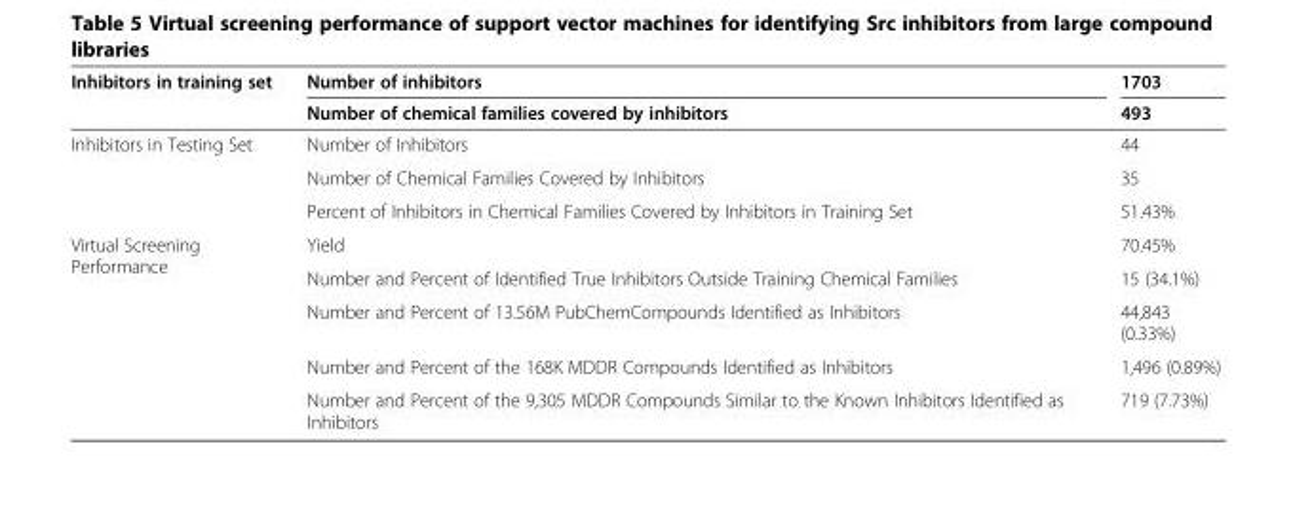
<table><thead><tr><td rowspan="2">Inhibitors in training set</td><td rowspan="2">Number of inhibitors Number of chemical families covered by inhibitors</td><td rowspan="2">1703 493</td></tr><tr></tr></thead><tbody><tr><td rowspan="3">Inhibitors in Testing Set</td><td>Number of Inhibitors</td><td>44</td></tr><tr><td>Number of Chemical Families Covered by Inhibitors</td><td>35</td></tr><tr><td>Percent of Inhibitors in Chemical Families Covered by Inhibitors in Training Set</td><td>51.43%</td></tr><tr><td rowspan="5">Virtual Screening Performance</td><td>Yield</td><td>70.45%</td></tr><tr><td>Number and Percent of Identified True Inhibitors Outside Training Chemical Families</td><td>15 (34.1%)</td></tr><tr><td>Number and Percent of 13.56M PubChemCompounds Identified as Inhibitors</td><td>44,843 (0.33%)</td></tr><tr><td>Number and Percent of the 168K MDDR Compounds Identified as Inhibitors</td><td>1,496 (0.89%)</td></tr><tr><td>Number and Percent of the 9,305 MDDR Compounds Similar to the Known Inhibitors Identified as Inhibitors</td><td>719 (7.73%)</td></tr></tbody></table>